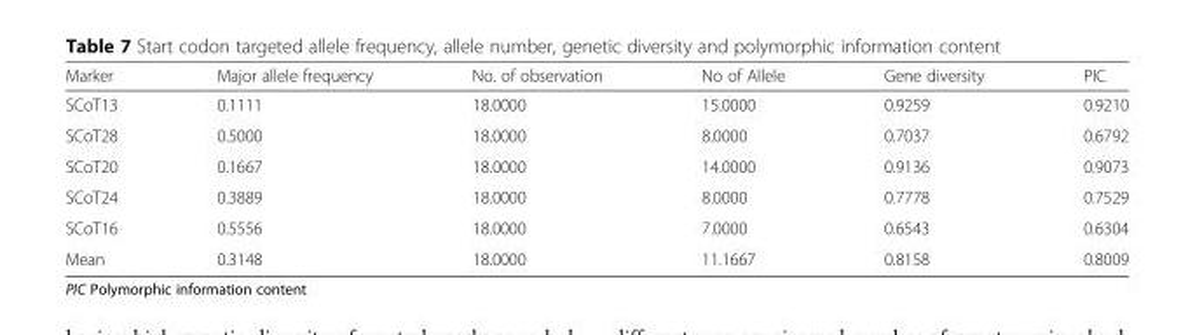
<table><thead><tr><td>Marker</td><td>Major allele frequency</td><td>No. of observation</td><td>No of Allele</td><td>Gene diversity</td><td>PIC</td></tr></thead><tbody><tr><td>SCoT13</td><td>0.1111</td><td>18.0000</td><td>15.0000</td><td>0.9259</td><td>0.9210</td></tr><tr><td>SCoT28</td><td>0.5000</td><td>18.0000</td><td>8.0000</td><td>0.7037</td><td>0.6792</td></tr><tr><td>SCoT20</td><td>0.1667</td><td>18.0000</td><td>14.0000</td><td>0.9136</td><td>0.9073</td></tr><tr><td>SCoT24</td><td>0.3889</td><td>18.0000</td><td>8.0000</td><td>0.7778</td><td>0.7529</td></tr><tr><td>SCoT16</td><td>0.5556</td><td>18.0000</td><td>7.0000</td><td>0.6543</td><td>0.6304</td></tr><tr><td>Mean</td><td>0.3148</td><td>18.0000</td><td>11.1667</td><td>0.8158</td><td>0.8009</td></tr></tbody></table>